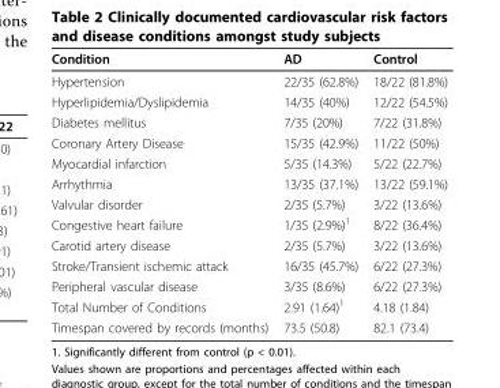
<table><thead><tr><td>Condition</td><td>AD</td><td>Control</td></tr></thead><tbody><tr><td>Hypertension</td><td>22/35 (62.8%)</td><td>18/22 (81.8%)</td></tr><tr><td>Hyperlipidemia/Dyslipidemia</td><td>14/35 (40%)</td><td>12/22 (54.5%)</td></tr><tr><td>Diabetes mellitus</td><td>7/35 (20%)</td><td>7/22 (31.8%)</td></tr><tr><td>Coronary Artery Disease</td><td>15/35 (42.9%)</td><td>11/22 (50%)</td></tr><tr><td>Myocardial infarction</td><td>5/35 (14.3%)</td><td>5/22 (22.7%)</td></tr><tr><td>Arrhythmia</td><td>13/35 (37.1%)</td><td>13/22 (59.1%)</td></tr><tr><td>Valvular disorder</td><td>2/35 (5.7%)</td><td>3/22 (13.6%)</td></tr><tr><td>Congestive heart failure</td><td>1/35 (2.9%)<sup>1</sup></td><td>8/22 (36.4%)</td></tr><tr><td>Carotid artery disease</td><td>2/35 (5.7%)</td><td>3/22 (13.6%)</td></tr><tr><td>Stroke/Transient ischemic attack</td><td>16/35 (45.7%)</td><td>6/22 (27.3%)</td></tr><tr><td>Peripheral vascular disease</td><td>3/35 (8.6%)</td><td>6/22 (27.3%)</td></tr><tr><td>Total Number of Conditions</td><td>2.91 (1.64)<sup>1</sup></td><td>4.18 (1.84)</td></tr><tr><td>Timespan covered by records (months)</td><td>73.5 (50.8)</td><td>82.1 (73.4)</td></tr></tbody></table>